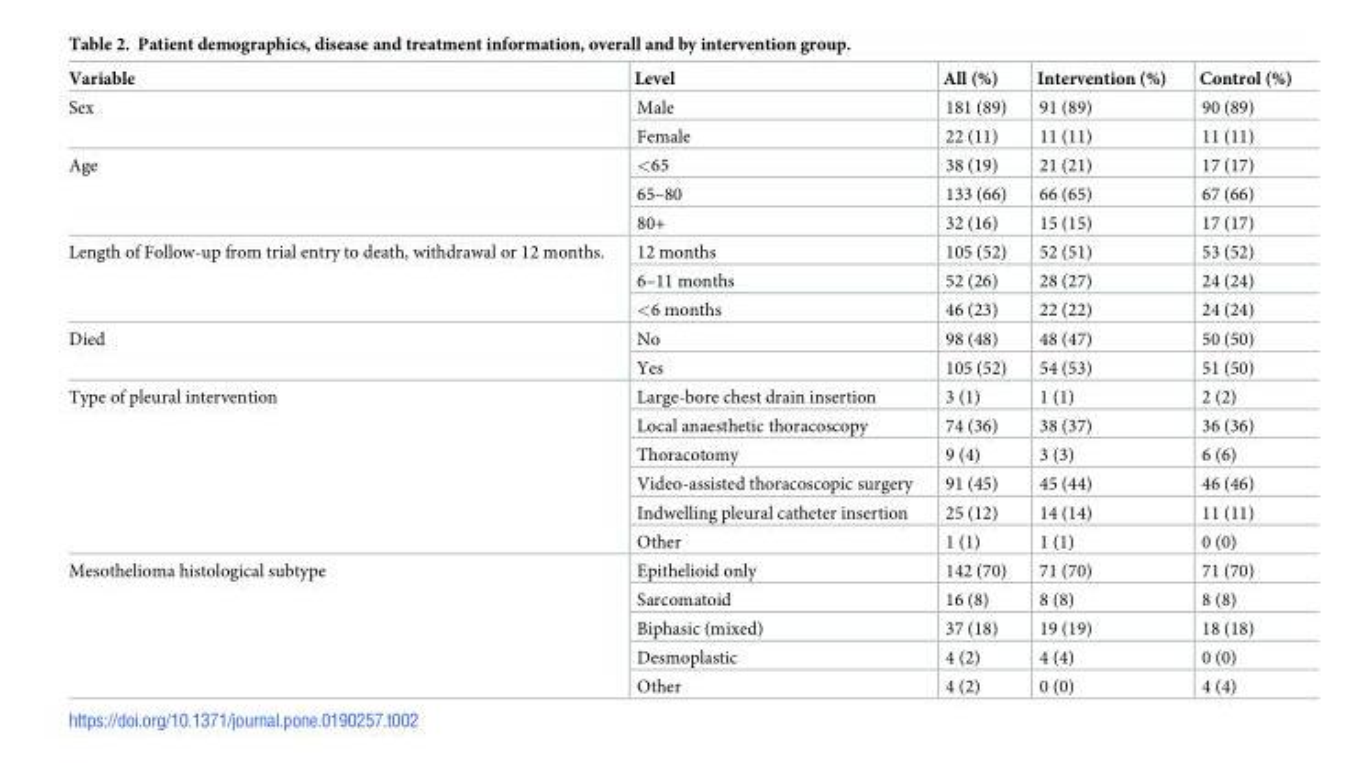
<table><thead><tr><td>Variable</td><td>Level</td><td>All (%)</td><td>Intervention (%)</td><td>Control (%)</td></tr></thead><tbody><tr><td rowspan="2">Sex</td><td>Male</td><td>181 (89)</td><td>91 (89)</td><td>90 (89)</td></tr><tr><td>Female</td><td>22 (11)</td><td>11 (11)</td><td>11 (11)</td></tr><tr><td rowspan="3">Age</td><td>&lt;65</td><td>38 (19)</td><td>21 (21)</td><td>17 (17)</td></tr><tr><td>65–80</td><td>133 (66)</td><td>66 (65)</td><td>67 (66)</td></tr><tr><td>80+</td><td>32 (16)</td><td>15 (15)</td><td>17 (17)</td></tr><tr><td rowspan="3">Length of Follow-up from trial entry to death, withdrawal or 12 months.</td><td>12 months</td><td>105 (52)</td><td>52 (51)</td><td>53 (52)</td></tr><tr><td>6–11 months</td><td>52 (26)</td><td>28 (27)</td><td>24 (24)</td></tr><tr><td>&lt;6 months</td><td>46 (23)</td><td>22 (22)</td><td>24 (24)</td></tr><tr><td rowspan="2">Died</td><td>No</td><td>98 (48)</td><td>48 (47)</td><td>50 (50)</td></tr><tr><td>Yes</td><td>105 (52)</td><td>54 (53)</td><td>51 (50)</td></tr><tr><td rowspan="6">Type of pleural intervention</td><td>Large-bore chest drain insertion</td><td>3 (1)</td><td>1 (1)</td><td>2 (2)</td></tr><tr><td>Local anaesthetic thoracoscopy</td><td>74 (36)</td><td>38 (37)</td><td>36 (36)</td></tr><tr><td>Thoracotomy</td><td>9 (4)</td><td>3 (3)</td><td>6 (6)</td></tr><tr><td>Video-assisted thoracoscopic surgery</td><td>91 (45)</td><td>45 (44)</td><td>46 (46)</td></tr><tr><td>Indwelling pleural catheter insertion</td><td>25 (12)</td><td>14 (14)</td><td>11 (11)</td></tr><tr><td>Other</td><td>1 (1)</td><td>1 (1)</td><td>0 (0)</td></tr><tr><td rowspan="5">Mesothelioma histological subtype</td><td>Epithelioid only</td><td>142 (70)</td><td>71 (70)</td><td>71 (70)</td></tr><tr><td>Sarcomatoid</td><td>16 (8)</td><td>8 (8)</td><td>8 (8)</td></tr><tr><td>Biphasic (mixed)</td><td>37 (18)</td><td>19 (19)</td><td>18 (18)</td></tr><tr><td>Desmoplastic</td><td>4 (2)</td><td>4 (4)</td><td>0 (0)</td></tr><tr><td>Other</td><td>4 (2)</td><td>0 (0)</td><td>4 (4)</td></tr></tbody></table>